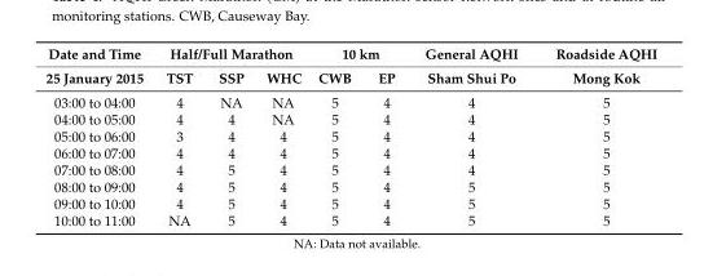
<table><thead><tr><td rowspan="2">Date and Time 25 January 2015</td><td colspan="3">Half/Full Marathon</td><td colspan="2">10 km</td><td rowspan="2">General AQHI Sham Shui Po</td><td rowspan="2">Roadside AQHI Mong Kok</td></tr><tr><td>TST</td><td>SSP</td><td>WHC</td><td>CWB</td><td>EP</td></tr></thead><tbody><tr><td>03:00 to 04:00</td><td>4</td><td>NA</td><td>NA</td><td>5</td><td>4</td><td>4</td><td>5</td></tr><tr><td>04:00 to 05:00</td><td>4</td><td>4</td><td>NA</td><td>5</td><td>4</td><td>4</td><td>5</td></tr><tr><td>05:00 to 06:00</td><td>3</td><td>4</td><td>4</td><td>5</td><td>4</td><td>4</td><td>5</td></tr><tr><td>06:00 to 07:00</td><td>4</td><td>4</td><td>4</td><td>5</td><td>4</td><td>4</td><td>5</td></tr><tr><td>07:00 to 08:00</td><td>4</td><td>5</td><td>4</td><td>5</td><td>4</td><td>4</td><td>5</td></tr><tr><td>08:00 to 09:00</td><td>4</td><td>5</td><td>4</td><td>5</td><td>4</td><td>5</td><td>5</td></tr><tr><td>09:00 to 10:00</td><td>4</td><td>5</td><td>4</td><td>5</td><td>4</td><td>5</td><td>5</td></tr><tr><td>10:00 to 11:00</td><td>NA</td><td>5</td><td>4</td><td>5</td><td>4</td><td>5</td><td>5</td></tr></tbody></table>